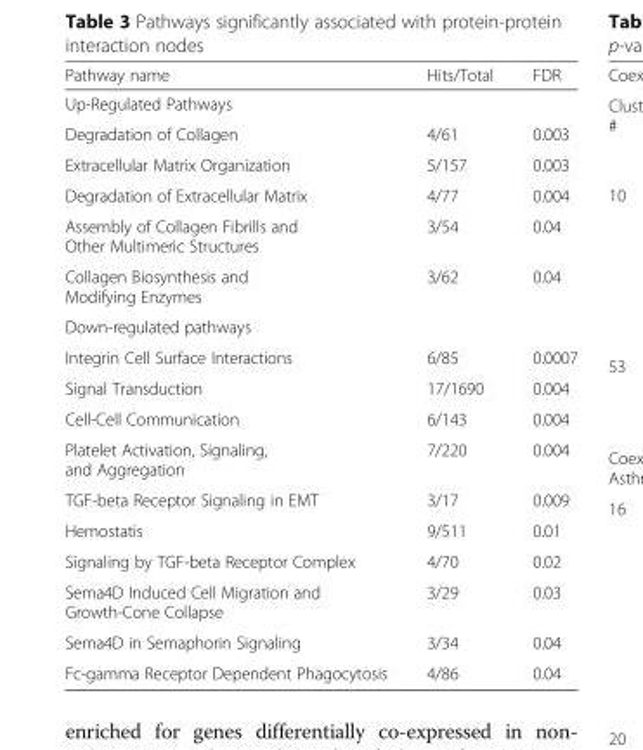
<table><thead><tr><td>Pathway name</td><td>Hits/Total</td><td>FDR</td></tr></thead><tbody><tr><td colspan="3">Up-Regulated Pathways</td></tr><tr><td>Degradation of Collagen</td><td>4/61</td><td>0.003</td></tr><tr><td>Extracellular Matrix Organization</td><td>5/157</td><td>0.003</td></tr><tr><td>Degradation of Extracellular Matrix</td><td>4/77</td><td>0.004</td></tr><tr><td>Assembly of Collagen Fibrills and Other Multimeric Structures</td><td>3/54</td><td>0.04</td></tr><tr><td>Collagen Biosynthesis and Modifying Enzymes</td><td>3/62</td><td>0.04</td></tr><tr><td colspan="3">Down-regulated pathways</td></tr><tr><td>Integrin Cell Surface Interactions</td><td>6/85</td><td>0.0007</td></tr><tr><td>Signal Transduction</td><td>17/1690</td><td>0.004</td></tr><tr><td>Cell-Cell Communication</td><td>6/143</td><td>0.004</td></tr><tr><td>Platelet Activation, Signaling, and Aggregation</td><td>7/220</td><td>0.004</td></tr><tr><td>TGF-beta Receptor Signaling in EMT</td><td>3/17</td><td>0.009</td></tr><tr><td>Hemostatis</td><td>9/511</td><td>0.01</td></tr><tr><td>Signaling by TGF-beta Receptor Complex</td><td>4/70</td><td>0.02</td></tr><tr><td>Sema4D Induced Cell Migration and Growth-Cone Collapse</td><td>3/29</td><td>0.03</td></tr><tr><td>Sema4D in Semaphorin Signaling</td><td>3/34</td><td>0.04</td></tr><tr><td>Fc-gamma Receptor Dependent Phagocytosis</td><td>4/86</td><td>0.04</td></tr></tbody></table>